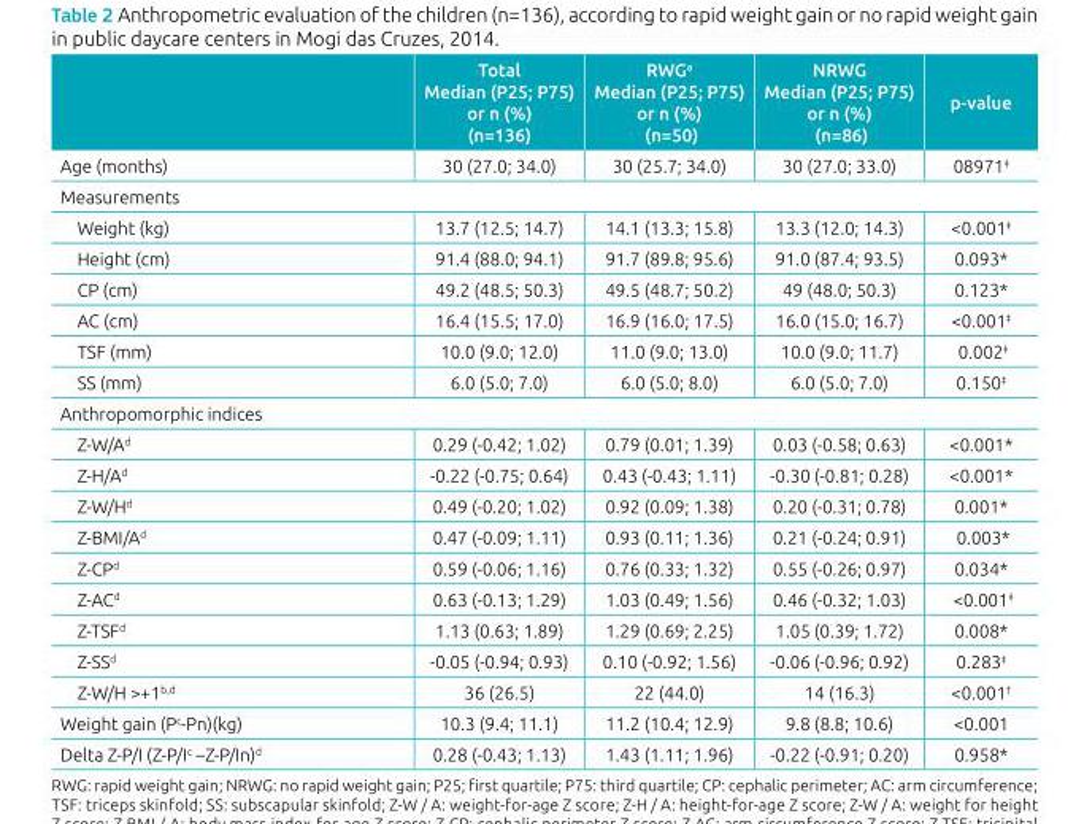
<table><thead><tr><td></td><td>Total Median (P25; P75) or n (%) (n=136)</td><td>RWG<sup>a</sup> Median (P25; P75) or n (%) (n=50)</td><td>NRWG Median (P25; P75) or n (%) (n=86)</td><td>p‑value</td></tr></thead><tbody><tr><td>Age (months)</td><td>30 (27.0; 34.0)</td><td>30 (25.7; 34.0)</td><td>30 (27.0; 33.0)</td><td>08971<sup>‡</sup></td></tr><tr><td colspan="5">Measurements</td></tr><tr><td>Weight (kg)</td><td>13.7 (12.5; 14.7)</td><td>14.1 (13.3; 15.8)</td><td>13.3 (12.0; 14.3)</td><td>&lt;0.001<sup>‡</sup></td></tr><tr><td>Height (cm)</td><td>91.4 (88.0; 94.1)</td><td>91.7 (89.8; 95.6)</td><td>91.0 (87.4; 93.5)</td><td>0.093*</td></tr><tr><td>CP (cm)</td><td>49.2 (48.5; 50.3)</td><td>49.5 (48.7; 50.2)</td><td>49 (48.0; 50.3)</td><td>0.123*</td></tr><tr><td>AC (cm)</td><td>16.4 (15.5; 17.0)</td><td>16.9 (16.0; 17.5)</td><td>16.0 (15.0; 16.7)</td><td>&lt;0.001<sup>‡</sup></td></tr><tr><td>TSF (mm)</td><td>10.0 (9.0; 12.0)</td><td>11.0 (9.0; 13.0)</td><td>10.0 (9.0; 11.7)</td><td>0.002<sup>‡</sup></td></tr><tr><td>SS (mm)</td><td>6.0 (5.0; 7.0)</td><td>6.0 (5.0; 8.0)</td><td>6.0 (5.0; 7.0)</td><td>0.150<sup>‡</sup></td></tr><tr><td colspan="5">Anthropomorphic indices</td></tr><tr><td>Z‑W/A<sup>d</sup></td><td>0.29 (‑0.42; 1.02)</td><td>0.79 (0.01; 1.39)</td><td>0.03 (‑0.58; 0.63)</td><td>&lt;0.001*</td></tr><tr><td>Z‑H/A<sup>d</sup></td><td>‑0.22 (‑0.75; 0.64)</td><td>0.43 (‑0.43; 1.11)</td><td>‑0.30 (‑0.81; 0.28)</td><td>&lt;0.001*</td></tr><tr><td>Z‑W/H<sup>d</sup></td><td>0.49 (‑0.20; 1.02)</td><td>0.92 (0.09; 1.38)</td><td>0.20 (‑0.31; 0.78)</td><td>0.001*</td></tr><tr><td>Z‑BMI/A<sup>d</sup></td><td>0.47 (‑0.09; 1.11)</td><td>0.93 (0.11; 1.36)</td><td>0.21 (‑0.24; 0.91)</td><td>0.003*</td></tr><tr><td>Z‑CP<sup>d</sup></td><td>0.59 (‑0.06; 1.16)</td><td>0.76 (0.33; 1.32)</td><td>0.55 (‑0.26; 0.97)</td><td>0.034*</td></tr><tr><td>Z‑AC<sup>d</sup></td><td>0.63 (‑0.13; 1.29)</td><td>1.03 (0.49; 1.56)</td><td>0.46 (‑0.32; 1.03)</td><td>&lt;0.001<sup>‡</sup></td></tr><tr><td>Z‑TSF<sup>d</sup></td><td>1.13 (0.63; 1.89)</td><td>1.29 (0.69; 2.25)</td><td>1.05 (0.39; 1.72)</td><td>0.008*</td></tr><tr><td>Z‑SS<sup>d</sup></td><td>‑0.05 (‑0.94; 0.93)</td><td>0.10 (‑0.92; 1.56)</td><td>‑0.06 (‑0.96; 0.92)</td><td>0.283<sup>‡</sup></td></tr><tr><td>Z‑W/H &gt;+1<sup>b,d</sup></td><td>36 (26.5)</td><td>22 (44.0)</td><td>14 (16.3)</td><td>&lt;0.001<sup>†</sup></td></tr><tr><td>Weight gain (P<sup>c</sup>‑Pn)(kg)</td><td>10.3 (9.4; 11.1)</td><td>11.2 (10.4; 12.9)</td><td>9.8 (8.8; 10.6)</td><td>&lt;0.001</td></tr><tr><td>Delta Z‑P/I (Z‑P/I<sup>c</sup> –Z‑P/In)<sup>d</sup></td><td>0.28 (‑0.43; 1.13)</td><td>1.43 (1.11; 1.96)</td><td>‑0.22 (‑0.91; 0.20)</td><td>0.958*</td></tr></tbody></table>